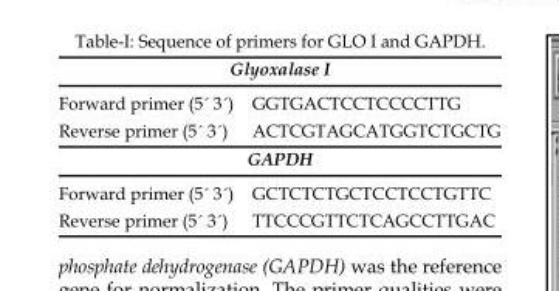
<table><thead><tr><td colspan="2">Glyoxalase I</td></tr><tr><td>Forward primer (5´ 3´)</td><td>GGTGACTCCTCCCCTTG</td></tr></thead><tbody><tr><td>Reverse primer (5´ 3´)</td><td>ACTCGTAGCATGGTCTGCTG</td></tr><tr><td colspan="2">GAPDH</td></tr><tr><td>Forward primer (5´ 3´)</td><td>GCTCTCTGCTCCTCCTGTTC</td></tr><tr><td>Reverse primer (5´ 3´)</td><td>TTCCCGTTCTCAGCCTTGAC</td></tr></tbody></table>